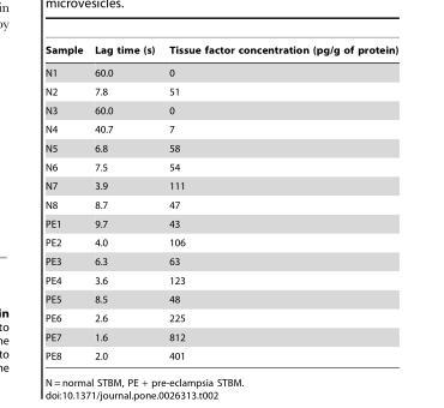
<table><thead><tr><td>Sample</td><td>Lag time (s)</td><td>Tissue factor concentration (pg/g of protein)</td></tr></thead><tbody><tr><td>N1</td><td>60.0</td><td>0</td></tr><tr><td>N2</td><td>7.8</td><td>51</td></tr><tr><td>N3</td><td>60.0</td><td>0</td></tr><tr><td>N4</td><td>40.7</td><td>7</td></tr><tr><td>N5</td><td>6.8</td><td>58</td></tr><tr><td>N6</td><td>7.5</td><td>54</td></tr><tr><td>N7</td><td>3.9</td><td>111</td></tr><tr><td>N8</td><td>8.7</td><td>47</td></tr><tr><td>PE1</td><td>9.7</td><td>43</td></tr><tr><td>PE2</td><td>4.0</td><td>106</td></tr><tr><td>PE3</td><td>6.3</td><td>63</td></tr><tr><td>PE4</td><td>3.6</td><td>123</td></tr><tr><td>PE5</td><td>8.5</td><td>48</td></tr><tr><td>PE6</td><td>2.6</td><td>225</td></tr><tr><td>PE7</td><td>1.6</td><td>812</td></tr><tr><td>PE8</td><td>2.0</td><td>401</td></tr></tbody></table>